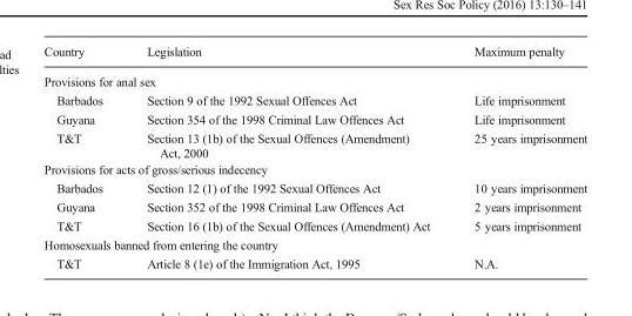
<table><thead><tr><td>Country</td><td>Legislation</td><td>Maximum penalty</td></tr></thead><tbody><tr><td colspan="3">Provisions for anal sex</td></tr><tr><td>Barbados</td><td>Section 9 of the 1992 Sexual Offences Act</td><td>Life imprisonment</td></tr><tr><td>Guyana</td><td>Section 354 of the 1998 Criminal Law Offences Act</td><td>Life imprisonment</td></tr><tr><td>T&amp;T</td><td>Section 13 (1b) of the Sexual Offences (Amendment) Act, 2000</td><td>25 years imprisonment</td></tr><tr><td colspan="3">Provisions for acts of gross/serious indecency</td></tr><tr><td>Barbados</td><td>Section 12 (1) of the 1992 Sexual Offences Act</td><td>10 years imprisonment</td></tr><tr><td>Guyana</td><td>Section 352 of the 1998 Criminal Law Offences Act</td><td>2 years imprisonment</td></tr><tr><td>T&amp;T</td><td>Section 16 (1b) of the Sexual Offences (Amendment) Act</td><td>5 years imprisonment</td></tr><tr><td colspan="3">Homosexuals banned from entering the country</td></tr><tr><td>T&amp;T</td><td>Article 8 (1e) of the Immigration Act, 1995</td><td>N.A.</td></tr></tbody></table>